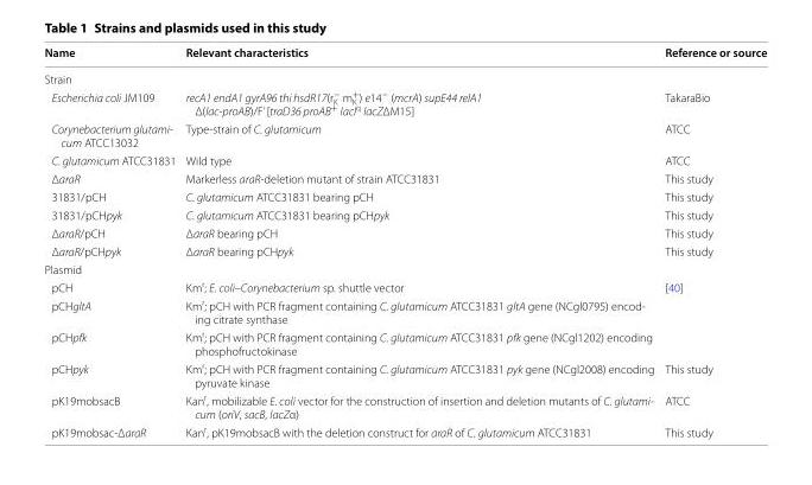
<table><thead><tr><td>Name</td><td>Relevant characteristics</td><td>Reference or source</td></tr></thead><tbody><tr><td colspan="3">Strain</td></tr><tr><td>Escherichia coli JM109</td><td>recA1 endA1 gyrA96 thi hsdR17(r<sub>K</sub> <sup>−</sup> m<sub>K</sub> <sup>+</sup>) e14<sup>−</sup> (mcrA) supE44 relA1 Δ(lac-proAB)/F’ [traD36 proAB<sup>+</sup> lacI<sup>q</sup> lacZΔM15]</td><td>TakaraBio</td></tr><tr><td>Corynebacterium glutami- cum ATCC13032</td><td>Type-strain of C. glutamicum</td><td>ATCC</td></tr><tr><td>C. glutamicum ATCC31831</td><td>Wild type</td><td>ATCC</td></tr><tr><td>ΔaraR</td><td>Markerless araR-deletion mutant of strain ATCC31831</td><td>This study</td></tr><tr><td>31831/pCH</td><td>C. glutamicum ATCC31831 bearing pCH</td><td>This study</td></tr><tr><td>31831/pCHpyk</td><td>C. glutamicum ATCC31831 bearing pCHpyk</td><td>This study</td></tr><tr><td>ΔaraR/pCH</td><td>ΔaraR bearing pCH</td><td>This study</td></tr><tr><td>ΔaraR/pCHpyk</td><td>ΔaraR bearing pCHpyk</td><td>This study</td></tr><tr><td colspan="3">Plasmid</td></tr><tr><td>pCH</td><td>Km<sup>r</sup>; E. coli–Corynebacterium sp. shuttle vector</td><td>[40]</td></tr><tr><td>pCHgltA</td><td>Kmr; pCH with PCR fragment containing C. glutamicum ATCC31831 gltA gene (NCgl0795) encod- ing citrate synthase</td><td></td></tr><tr><td>pCHpfk</td><td>Km<sup>r</sup>; pCH with PCR fragment containing C. glutamicum ATCC31831 pfk gene (NCgl1202) encoding phosphofructokinase</td><td></td></tr><tr><td>pCHpyk</td><td>Km<sup>r</sup>; pCH with PCR fragment containing C. glutamicum ATCC31831 pyk gene (NCgl2008) encoding pyruvate kinase</td><td>This study</td></tr><tr><td>pK19mobsacB</td><td>Kanr, mobilizable E. coli vector for the construction of insertion and deletion mutants of C. glutami- cum (oriV, sacB, lacZα)</td><td>ATCC</td></tr><tr><td>pK19mobsac-ΔaraR</td><td>Kan<sup>r</sup>, pK19mobsacB with the deletion construct for araR of C. glutamicum ATCC31831</td><td>This study</td></tr></tbody></table>